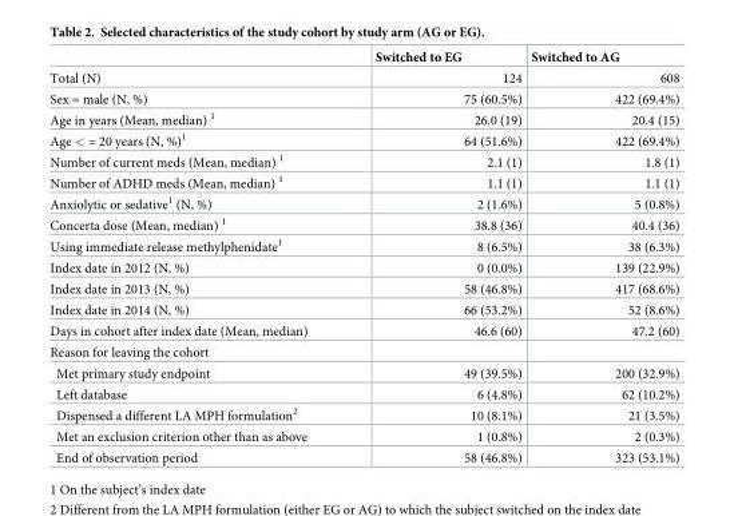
<table><thead><tr><td></td><td>Switched to EG</td><td>Switched to AG</td></tr></thead><tbody><tr><td>Total (N)</td><td>124</td><td>608</td></tr><tr><td>Sex = male (N, %)</td><td>75 (60.5%)</td><td>422 (69.4%)</td></tr><tr><td>Age in years (Mean, median) <sup>1</sup></td><td>26.0 (19)</td><td>20.4 (15)</td></tr><tr><td>Age &lt; = 20 years (N, %)<sup>1</sup></td><td>64 (51.6%)</td><td>422 (69.4%)</td></tr><tr><td>Number of current meds (Mean, median) <sup>1</sup></td><td>2.1 (1)</td><td>1.8 (1)</td></tr><tr><td>Number of ADHD meds (Mean, median) <sup>1</sup></td><td>1.1 (1)</td><td>1.1 (1)</td></tr><tr><td>Anxiolytic or sedative<sup>1</sup> (N, %)</td><td>2 (1.6%)</td><td>5 (0.8%)</td></tr><tr><td>Concerta dose (Mean, median) <sup>1</sup></td><td>38.8 (36)</td><td>40.4 (36)</td></tr><tr><td>Using immediate release methylphenidate<sup>1</sup></td><td>8 (6.5%)</td><td>38 (6.3%)</td></tr><tr><td>Index date in 2012 (N, %)</td><td>0 (0.0%)</td><td>139 (22.9%)</td></tr><tr><td>Index date in 2013 (N, %)</td><td>58 (46.8%)</td><td>417 (68.6%)</td></tr><tr><td>Index date in 2014 (N, %)</td><td>66 (53.2%)</td><td>52 (8.6%)</td></tr><tr><td>Days in cohort after index date (Mean, median)</td><td>46.6 (60)</td><td>47.2 (60)</td></tr><tr><td colspan="3">Reason for leaving the cohort</td></tr><tr><td>Met primary study endpoint</td><td>49 (39.5%)</td><td>200 (32.9%)</td></tr><tr><td>Left database</td><td>6 (4.8%)</td><td>62 (10.2%)</td></tr><tr><td>Dispensed a different LA MPH formulation<sup>2</sup></td><td>10 (8.1%)</td><td>21 (3.5%)</td></tr><tr><td>Met an exclusion criterion other than as above</td><td>1 (0.8%)</td><td>2 (0.3%)</td></tr><tr><td>End of observation period</td><td>58 (46.8%)</td><td>323 (53.1%)</td></tr></tbody></table>